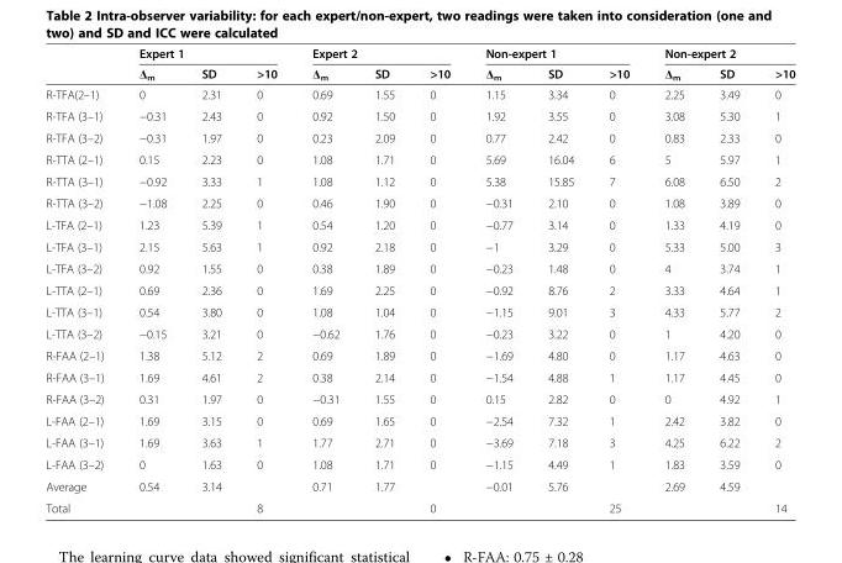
<table><thead><tr><td rowspan="2"></td><td colspan="3">Expert 1</td><td colspan="3">Expert 2</td><td colspan="3">Non-expert 1</td><td colspan="3">Non-expert 2</td></tr><tr><td>Δ<sub>m</sub></td><td>SD</td><td>&gt;10</td><td>Δ<sub>m</sub></td><td>SD</td><td>&gt;10</td><td>Δ<sub>m</sub></td><td>SD</td><td>&gt;10</td><td>Δ<sub>m</sub></td><td>SD</td><td>&gt;10</td></tr></thead><tbody><tr><td>R-TFA(2–1)</td><td>0</td><td>2.31</td><td>0</td><td>0.69</td><td>1.55</td><td>0</td><td>1.15</td><td>3.34</td><td>0</td><td>2.25</td><td>3.49</td><td>0</td></tr><tr><td>R-TFA (3–1)</td><td>−0.31</td><td>2.43</td><td>0</td><td>0.92</td><td>1.50</td><td>0</td><td>1.92</td><td>3.55</td><td>0</td><td>3.08</td><td>5.30</td><td>1</td></tr><tr><td>R-TFA (3–2)</td><td>−0.31</td><td>1.97</td><td>0</td><td>0.23</td><td>2.09</td><td>0</td><td>0.77</td><td>2.42</td><td>0</td><td>0.83</td><td>2.33</td><td>0</td></tr><tr><td>R-TTA (2–1)</td><td>0.15</td><td>2.23</td><td>0</td><td>1.08</td><td>1.71</td><td>0</td><td>5.69</td><td>16.04</td><td>6</td><td>5</td><td>5.97</td><td>1</td></tr><tr><td>R-TTA (3–1)</td><td>−0.92</td><td>3.33</td><td>1</td><td>1.08</td><td>1.12</td><td>0</td><td>5.38</td><td>15.85</td><td>7</td><td>6.08</td><td>6.50</td><td>2</td></tr><tr><td>R-TTA (3–2)</td><td>−1.08</td><td>2.25</td><td>0</td><td>0.46</td><td>1.90</td><td>0</td><td>−0.31</td><td>2.10</td><td>0</td><td>1.08</td><td>3.89</td><td>0</td></tr><tr><td>L-TFA (2–1)</td><td>1.23</td><td>5.39</td><td>1</td><td>0.54</td><td>1.20</td><td>0</td><td>−0.77</td><td>3.14</td><td>0</td><td>1.33</td><td>4.19</td><td>0</td></tr><tr><td>L-TFA (3–1)</td><td>2.15</td><td>5.63</td><td>1</td><td>0.92</td><td>2.18</td><td>0</td><td>−1</td><td>3.29</td><td>0</td><td>5.33</td><td>5.00</td><td>3</td></tr><tr><td>L-TFA (3–2)</td><td>0.92</td><td>1.55</td><td>0</td><td>0.38</td><td>1.89</td><td>0</td><td>−0.23</td><td>1.48</td><td>0</td><td>4</td><td>3.74</td><td>1</td></tr><tr><td>L-TTA (2–1)</td><td>0.69</td><td>2.36</td><td>0</td><td>1.69</td><td>2.25</td><td>0</td><td>−0.92</td><td>8.76</td><td>2</td><td>3.33</td><td>4.64</td><td>1</td></tr><tr><td>L-TTA (3–1)</td><td>0.54</td><td>3.80</td><td>0</td><td>1.08</td><td>1.04</td><td>0</td><td>−1.15</td><td>9.01</td><td>3</td><td>4.33</td><td>5.77</td><td>2</td></tr><tr><td>L-TTA (3–2)</td><td>−0.15</td><td>3.21</td><td>0</td><td>−0.62</td><td>1.76</td><td>0</td><td>−0.23</td><td>3.22</td><td>0</td><td>1</td><td>4.20</td><td>0</td></tr><tr><td>R-FAA (2–1)</td><td>1.38</td><td>5.12</td><td>2</td><td>0.69</td><td>1.89</td><td>0</td><td>−1.69</td><td>4.80</td><td>0</td><td>1.17</td><td>4.63</td><td>0</td></tr><tr><td>R-FAA (3–1)</td><td>1.69</td><td>4.61</td><td>2</td><td>0.38</td><td>2.14</td><td>0</td><td>−1.54</td><td>4.88</td><td>1</td><td>1.17</td><td>4.45</td><td>0</td></tr><tr><td>R-FAA (3–2)</td><td>0.31</td><td>1.97</td><td>0</td><td>−0.31</td><td>1.55</td><td>0</td><td>0.15</td><td>2.82</td><td>0</td><td>0</td><td>4.92</td><td>1</td></tr><tr><td>L-FAA (2–1)</td><td>1.69</td><td>3.15</td><td>0</td><td>0.69</td><td>1.65</td><td>0</td><td>−2.54</td><td>7.32</td><td>1</td><td>2.42</td><td>3.82</td><td>0</td></tr><tr><td>L-FAA (3–1)</td><td>1.69</td><td>3.63</td><td>1</td><td>1.77</td><td>2.71</td><td>0</td><td>−3.69</td><td>7.18</td><td>3</td><td>4.25</td><td>6.22</td><td>2</td></tr><tr><td>L-FAA (3–2)</td><td>0</td><td>1.63</td><td>0</td><td>1.08</td><td>1.71</td><td>0</td><td>−1.15</td><td>4.49</td><td>1</td><td>1.83</td><td>3.59</td><td>0</td></tr><tr><td>Average</td><td>0.54</td><td>3.14</td><td></td><td>0.71</td><td>1.77</td><td></td><td>−0.01</td><td>5.76</td><td></td><td>2.69</td><td>4.59</td><td></td></tr><tr><td>Total</td><td></td><td></td><td>8</td><td></td><td></td><td>0</td><td></td><td></td><td>25</td><td></td><td></td><td>14</td></tr></tbody></table>